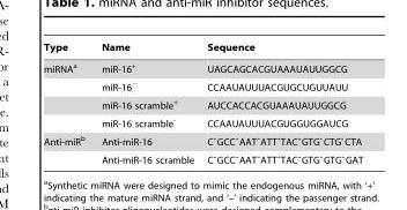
<table><thead><tr><td>Type</td><td>Name</td><td>Sequence</td></tr></thead><tbody><tr><td rowspan="4">miRNA<sup>a</sup></td><td>miR-16<sup>+</sup></td><td>UAGCAGCACGUAAAUAUUGGCG</td></tr><tr><td>miR-16<sup>−</sup></td><td>CCAAUAUUUACGUGCUGUUAUU</td></tr><tr><td>miR-16 scramble<sup>+</sup></td><td>AUCCACCACGUAAAUAUUGGCG</td></tr><tr><td>miR-16 scramble<sup>-</sup></td><td>CCAAUAUUUACGUGGUGGAUCG</td></tr><tr><td rowspan="2">Anti-miR<sup>b</sup></td><td>Anti-miR-16</td><td>CˆGCCˆAATˆATTˆTACˆGTGˆCTGˆCTA</td></tr><tr><td>Anti-miR-16 scramble</td><td>CˆGCCˆAATˆATTˆTACˆGTGˆGTGˆGAT</td></tr></tbody></table>